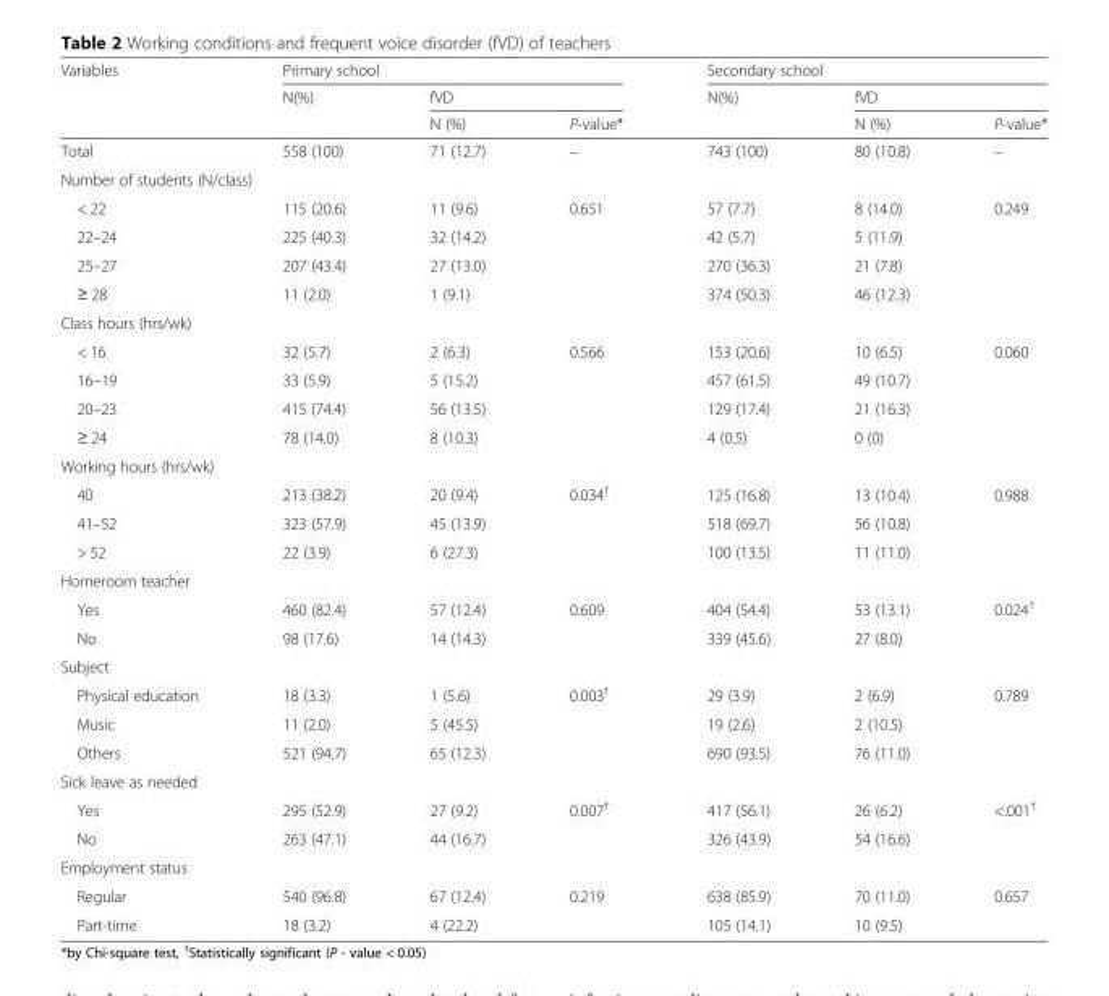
<table><thead><tr><td rowspan="3">Variables</td><td colspan="3">Primary school</td><td colspan="3">Secondary school</td></tr><tr><td rowspan="2">N(%)</td><td colspan="2">fVD</td><td rowspan="2">N(%)</td><td colspan="2">fVD</td></tr><tr><td>N (%)</td><td>P-value*</td><td>N (%)</td><td>P-value*</td></tr></thead><tbody><tr><td>Total</td><td>558 (100)</td><td>71 (12.7)</td><td>–</td><td>743 (100)</td><td>80 (10.8)</td><td>–</td></tr><tr><td colspan="7">Number of students (N/class)</td></tr><tr><td>&lt; 22</td><td>115 (20.6)</td><td>11 (9.6)</td><td>0.651</td><td>57 (7.7)</td><td>8 (14.0)</td><td>0.249</td></tr><tr><td>22–24</td><td>225 (40.3)</td><td>32 (14.2)</td><td></td><td>42 (5.7)</td><td>5 (11.9)</td><td></td></tr><tr><td>25–27</td><td>207 (43.4)</td><td>27 (13.0)</td><td></td><td>270 (36.3)</td><td>21 (7.8)</td><td></td></tr><tr><td>≥ 28</td><td>11 (2.0)</td><td>1 (9.1)</td><td></td><td>374 (50.3)</td><td>46 (12.3)</td><td></td></tr><tr><td colspan="7">Class hours (hrs/wk)</td></tr><tr><td>&lt; 16</td><td>32 (5.7)</td><td>2 (6.3)</td><td>0.566</td><td>153 (20.6)</td><td>10 (6.5)</td><td>0.060</td></tr><tr><td>16–19</td><td>33 (5.9)</td><td>5 (15.2)</td><td></td><td>457 (61.5)</td><td>49 (10.7)</td><td></td></tr><tr><td>20–23</td><td>415 (74.4)</td><td>56 (13.5)</td><td></td><td>129 (17.4)</td><td>21 (16.3)</td><td></td></tr><tr><td>≥ 24</td><td>78 (14.0)</td><td>8 (10.3)</td><td></td><td>4 (0.5)</td><td>0 (0)</td><td></td></tr><tr><td colspan="7">Working hours (hrs/wk)</td></tr><tr><td>40</td><td>213 (38.2)</td><td>20 (9.4)</td><td>0.034<sup>†</sup></td><td>125 (16.8)</td><td>13 (10.4)</td><td>0.988</td></tr><tr><td>41–52</td><td>323 (57.9)</td><td>45 (13.9)</td><td></td><td>518 (69.7)</td><td>56 (10.8)</td><td></td></tr><tr><td>&gt; 52</td><td>22 (3.9)</td><td>6 (27.3)</td><td></td><td>100 (13.5)</td><td>11 (11.0)</td><td></td></tr><tr><td colspan="7">Homeroom teacher</td></tr><tr><td>Yes</td><td>460 (82.4)</td><td>57 (12.4)</td><td>0.609</td><td>404 (54.4)</td><td>53 (13.1)</td><td>0.024<sup>†</sup></td></tr><tr><td>No</td><td>98 (17.6)</td><td>14 (14.3)</td><td></td><td>339 (45.6)</td><td>27 (8.0)</td><td></td></tr><tr><td colspan="7">Subject</td></tr><tr><td>Physical education</td><td>18 (3.3)</td><td>1 (5.6)</td><td>0.003<sup>†</sup></td><td>29 (3.9)</td><td>2 (6.9)</td><td>0.789</td></tr><tr><td>Music</td><td>11 (2.0)</td><td>5 (45.5)</td><td></td><td>19 (2.6)</td><td>2 (10.5)</td><td></td></tr><tr><td>Others</td><td>521 (94.7)</td><td>65 (12.3)</td><td></td><td>690 (93.5)</td><td>76 (11.0)</td><td></td></tr><tr><td colspan="7">Sick leave as needed</td></tr><tr><td>Yes</td><td>295 (52.9)</td><td>27 (9.2)</td><td>0.007<sup>†</sup></td><td>417 (56.1)</td><td>26 (6.2)</td><td>&lt;.001<sup>†</sup></td></tr><tr><td>No</td><td>263 (47.1)</td><td>44 (16.7)</td><td></td><td>326 (43.9)</td><td>54 (16.6)</td><td></td></tr><tr><td colspan="7">Employment status</td></tr><tr><td>Regular</td><td>540 (96.8)</td><td>67 (12.4)</td><td>0.219</td><td>638 (85.9)</td><td>70 (11.0)</td><td>0.657</td></tr><tr><td>Part-time</td><td>18 (3.2)</td><td>4 (22.2)</td><td></td><td>105 (14.1)</td><td>10 (9.5)</td><td></td></tr></tbody></table>